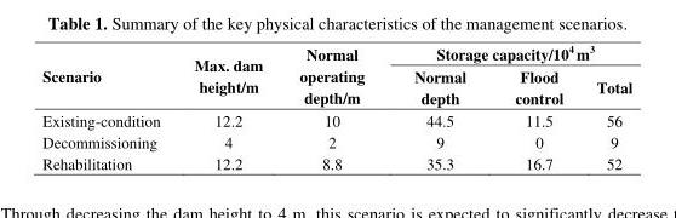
<table><thead><tr><td rowspan="2">Scenario</td><td rowspan="2">Max. dam height/m</td><td rowspan="2">Normal operating depth/m</td><td colspan="3">Storage capacity/10<sup>4</sup> m<sup>3</sup></td></tr><tr><td>Normal depth</td><td>Flood control</td><td>Total</td></tr></thead><tbody><tr><td>Existing-condition</td><td>12.2</td><td>10</td><td>44.5</td><td>11.5</td><td>56</td></tr><tr><td>Decommissioning</td><td>4</td><td>2</td><td>9</td><td>0</td><td>9</td></tr><tr><td>Rehabilitation</td><td>12.2</td><td>8.8</td><td>35.3</td><td>16.7</td><td>52</td></tr></tbody></table>